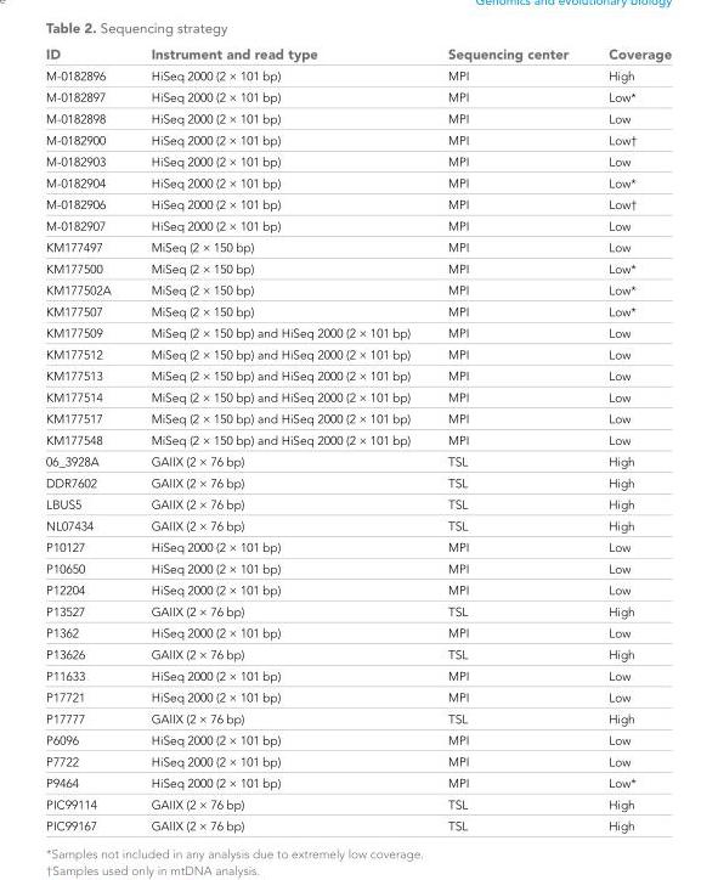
<table><thead><tr><td>ID</td><td>Instrument and read type</td><td>Sequencing center</td><td>Coverage</td></tr></thead><tbody><tr><td>M-0182896</td><td>HiSeq 2000 (2 × 101 bp)</td><td>MPI</td><td>High</td></tr><tr><td>M-0182897</td><td>HiSeq 2000 (2 × 101 bp)</td><td>MPI</td><td>Low*</td></tr><tr><td>M-0182898</td><td>HiSeq 2000 (2 × 101 bp)</td><td>MPI</td><td>Low</td></tr><tr><td>M-0182900</td><td>HiSeq 2000 (2 × 101 bp)</td><td>MPI</td><td>Low†</td></tr><tr><td>M-0182903</td><td>HiSeq 2000 (2 × 101 bp)</td><td>MPI</td><td>Low</td></tr><tr><td>M-0182904</td><td>HiSeq 2000 (2 × 101 bp)</td><td>MPI</td><td>Low*</td></tr><tr><td>M-0182906</td><td>HiSeq 2000 (2 × 101 bp)</td><td>MPI</td><td>Low†</td></tr><tr><td>M-0182907</td><td>HiSeq 2000 (2 × 101 bp)</td><td>MPI</td><td>Low</td></tr><tr><td>KM177497</td><td>MiSeq (2 × 150 bp)</td><td>MPI</td><td>Low</td></tr><tr><td>KM177500</td><td>MiSeq (2 × 150 bp)</td><td>MPI</td><td>Low*</td></tr><tr><td>KM177502A</td><td>MiSeq (2 × 150 bp)</td><td>MPI</td><td>Low*</td></tr><tr><td>KM177507</td><td>MiSeq (2 × 150 bp)</td><td>MPI</td><td>Low*</td></tr><tr><td>KM177509</td><td>MiSeq (2 × 150 bp) and HiSeq 2000 (2 × 101 bp)</td><td>MPI</td><td>Low</td></tr><tr><td>KM177512</td><td>MiSeq (2 × 150 bp) and HiSeq 2000 (2 × 101 bp)</td><td>MPI</td><td>Low</td></tr><tr><td>KM177513</td><td>MiSeq (2 × 150 bp) and HiSeq 2000 (2 × 101 bp)</td><td>MPI</td><td>Low</td></tr><tr><td>KM177514</td><td>MiSeq (2 × 150 bp) and HiSeq 2000 (2 × 101 bp)</td><td>MPI</td><td>Low</td></tr><tr><td>KM177517</td><td>MiSeq (2 × 150 bp) and HiSeq 2000 (2 × 101 bp)</td><td>MPI</td><td>Low</td></tr><tr><td>KM177548</td><td>MiSeq (2 × 150 bp) and HiSeq 2000 (2 × 101 bp)</td><td>MPI</td><td>Low</td></tr><tr><td>06_3928A</td><td>GAIIX (2 × 76 bp)</td><td>TSL</td><td>High</td></tr><tr><td>DDR7602</td><td>GAIIX (2 × 76 bp)</td><td>TSL</td><td>High</td></tr><tr><td>LBUS5</td><td>GAIIX (2 × 76 bp)</td><td>TSL</td><td>High</td></tr><tr><td>NL07434</td><td>GAIIX (2 × 76 bp)</td><td>TSL</td><td>High</td></tr><tr><td>P10127</td><td>HiSeq 2000 (2 × 101 bp)</td><td>MPI</td><td>Low</td></tr><tr><td>P10650</td><td>HiSeq 2000 (2 × 101 bp)</td><td>MPI</td><td>Low</td></tr><tr><td>P12204</td><td>HiSeq 2000 (2 × 101 bp)</td><td>MPI</td><td>Low</td></tr><tr><td>P13527</td><td>GAIIX (2 × 76 bp)</td><td>TSL</td><td>High</td></tr><tr><td>P1362</td><td>HiSeq 2000 (2 × 101 bp)</td><td>MPI</td><td>Low</td></tr><tr><td>P13626</td><td>GAIIX (2 × 76 bp)</td><td>TSL</td><td>High</td></tr><tr><td>P11633</td><td>HiSeq 2000 (2 × 101 bp)</td><td>MPI</td><td>Low</td></tr><tr><td>P17721</td><td>HiSeq 2000 (2 × 101 bp)</td><td>MPI</td><td>Low</td></tr><tr><td>P17777</td><td>GAIIX (2 × 76 bp)</td><td>TSL</td><td>High</td></tr><tr><td>P6096</td><td>HiSeq 2000 (2 × 101 bp)</td><td>MPI</td><td>Low</td></tr><tr><td>P7722</td><td>HiSeq 2000 (2 × 101 bp)</td><td>MPI</td><td>Low</td></tr><tr><td>P9464</td><td>HiSeq 2000 (2 × 101 bp)</td><td>MPI</td><td>Low*</td></tr><tr><td>PIC99114</td><td>GAIIX (2 × 76 bp)</td><td>TSL</td><td>High</td></tr><tr><td>PIC99167</td><td>GAIIX (2 × 76 bp)</td><td>TSL</td><td>High</td></tr></tbody></table>